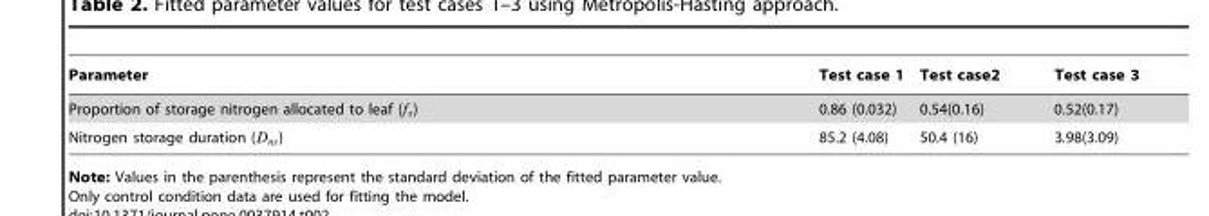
<table><thead><tr><td>Parameter</td><td>Test case 1</td><td>Test case2</td><td>Test case 3</td></tr></thead><tbody><tr><td>Proportion of storage nitrogen allocated to leaf (fs)</td><td>0.86 (0.032)</td><td>0.54(0.16)</td><td>0.52(0.17)</td></tr><tr><td>Nitrogen storage duration (Dns)</td><td>85.2 (4.08)</td><td>50.4 (16)</td><td>3.98(3.09)</td></tr></tbody></table>